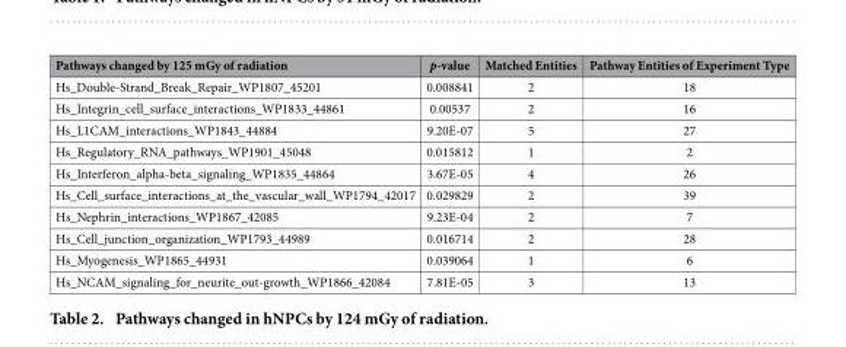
<table><thead><tr><td>Pathways changed by 125 mGy of radiation</td><td>p-value</td><td>Matched Entities</td><td>Pathway Entities of Experiment Type</td></tr></thead><tbody><tr><td>Hs_Double-Strand_Break_Repair_WP1807_45201</td><td>0.008841</td><td>2</td><td>18</td></tr><tr><td>Hs_Integrin_cell_surface_interactions_WP1833_44861</td><td>0.00537</td><td>2</td><td>16</td></tr><tr><td>Hs_L1CAM_interactions_WP1843_44884</td><td>9.20E-07</td><td>5</td><td>27</td></tr><tr><td>Hs_Regulatory_RNA_pathways_WP1901_45048</td><td>0.015812</td><td>1</td><td>2</td></tr><tr><td>Hs_Interferon_alpha-beta_signaling_WP1835_44864</td><td>3.67E-05</td><td>4</td><td>26</td></tr><tr><td>Hs_Cell_surface_interactions_at_the_vascular_wall_WP1794_42017</td><td>0.029829</td><td>2</td><td>39</td></tr><tr><td>Hs_Nephrin_interactions_WP1867_42085</td><td>9.23E-04</td><td>2</td><td>7</td></tr><tr><td>Hs_Cell_junction_organization_WP1793_44989</td><td>0.016714</td><td>2</td><td>28</td></tr><tr><td>Hs_Myogenesis_WP1865_44931</td><td>0.039064</td><td>1</td><td>6</td></tr><tr><td>Hs_NCAM_signaling_for_neurite_out-growth_WP1866_42084</td><td>7.81E-05</td><td>3</td><td>13</td></tr></tbody></table>